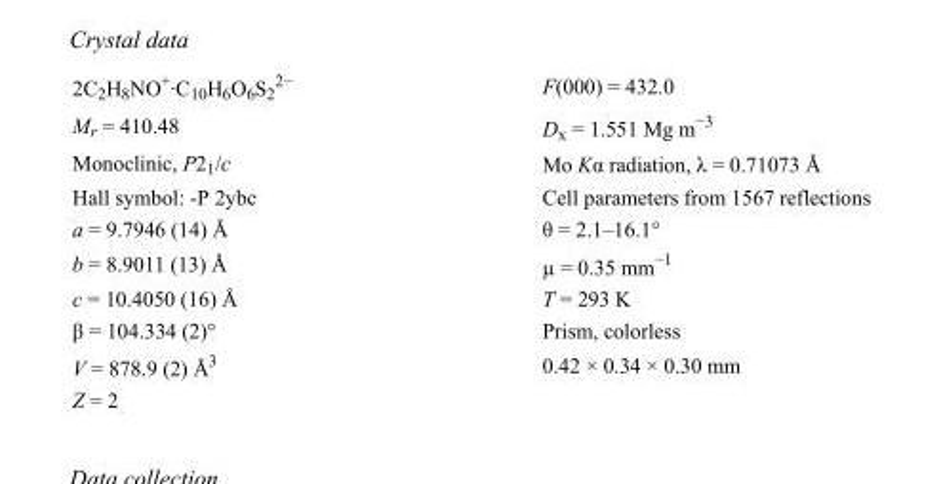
<table><tbody><tr><td>2C<sub>2</sub>H<sub>8</sub>NO<sup>+</sup>·C<sub>10</sub>H<sub>6</sub>O<sub>6</sub>S<sub>2</sub> <sup>2−</sup></td><td>F(000) = 432.0</td></tr><tr><td>M<sub>r</sub> = 410.48</td><td>D<sub>x</sub> = 1.551 Mg m<sup>−3</sup></td></tr><tr><td>Monoclinic, P2<sub>1</sub>/c</td><td>Mo Kα radiation, λ = 0.71073 Å</td></tr><tr><td>Hall symbol: -P 2ybc</td><td>Cell parameters from 1567 reflections</td></tr><tr><td>a = 9.7946 (14) Å</td><td>θ = 2.1–16.1°</td></tr><tr><td>b = 8.9011 (13) Å</td><td>µ = 0.35 mm<sup>−1</sup></td></tr><tr><td>c = 10.4050 (16) Å</td><td>T = 293 K</td></tr><tr><td>β = 104.334 (2)°</td><td>Prism, colorless</td></tr><tr><td>V = 878.9 (2) Å<sup>3</sup></td><td>0.42 × 0.34 × 0.30 mm</td></tr><tr><td>Z = 2</td><td></td></tr></tbody></table>